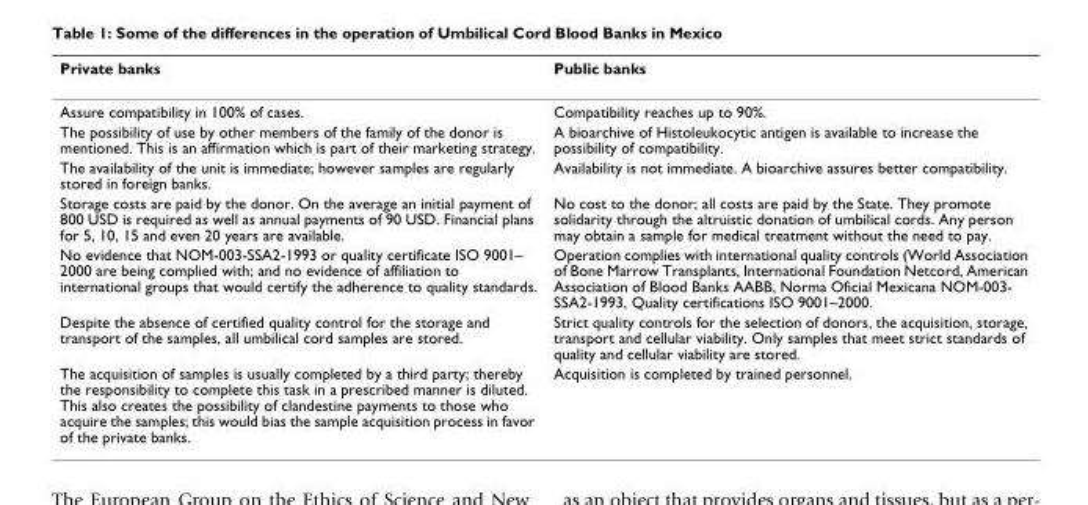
<table><thead><tr><td>Private banks</td><td>Public banks</td></tr></thead><tbody><tr><td>Assure compatibility in 100% of cases.</td><td>Compatibility reaches up to 90%.</td></tr><tr><td>The possibility of use by other members of the family of the donor is mentioned. This is an affirmation which is part of their marketing strategy.</td><td>A bioarchive of Histoleukocytic antigen is available to increase the possibility of compatibility.</td></tr><tr><td>The availability of the unit is immediate; however samples are regularly stored in foreign banks.</td><td>Availability is not immediate. A bioarchive assures better compatibility.</td></tr><tr><td>Storage costs are paid by the donor. On the average an initial payment of 800 USD is required as well as annual payments of 90 USD. Financial plans for 5, 10, 15 and even 20 years are available.</td><td>No cost to the donor; all costs are paid by the State. They promote solidarity through the altruistic donation of umbilical cords. Any person may obtain a sample for medical treatment without the need to pay.</td></tr><tr><td>No evidence that NOM-003-SSA2-1993 or quality certificate ISO 9001– 2000 are being complied with; and no evidence of affiliation to international groups that would certify the adherence to quality standards.</td><td>Operation complies with international quality controls (World Association of Bone Marrow Transplants, International Foundation Netcord, American Association of Blood Banks AABB, Norma Oficial Mexicana NOM-003- SSA2-1993, Quality certifications ISO 9001–2000.</td></tr><tr><td>Despite the absence of certified quality control for the storage and transport of the samples, all umbilical cord samples are stored.</td><td>Strict quality controls for the selection of donors, the acquisition, storage, transport and cellular viability. Only samples that meet strict standards of quality and cellular viability are stored.</td></tr><tr><td>The acquisition of samples is usually completed by a third party; thereby the responsibility to complete this task in a prescribed manner is diluted. This also creates the possibility of clandestine payments to those who acquire the samples; this would bias the sample acquisition process in favor of the private banks.</td><td>Acquisition is completed by trained personnel.</td></tr></tbody></table>